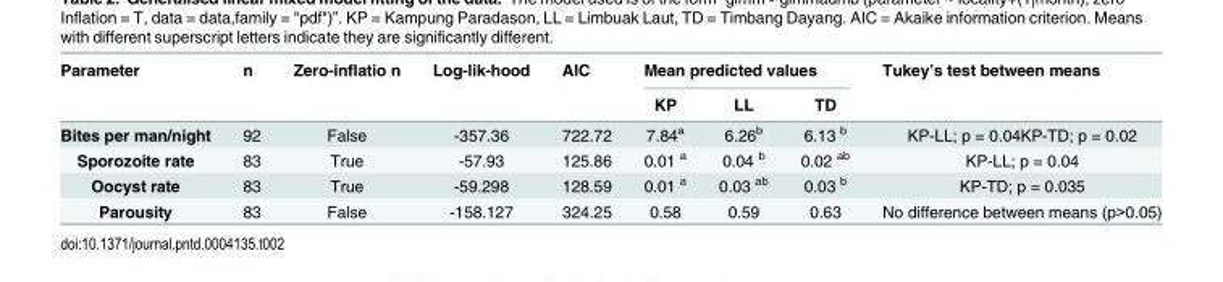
<table><thead><tr><td rowspan="2">Parameter</td><td rowspan="2">n</td><td rowspan="2">Zero-inflatio n</td><td rowspan="2">Log-lik-hood</td><td rowspan="2">AIC</td><td colspan="3">Mean predicted values</td><td rowspan="2">Tukey’s test between means</td></tr><tr><td>KP</td><td>LL</td><td>TD</td></tr></thead><tbody><tr><td>Bites per man/night</td><td>92</td><td>False</td><td>-357.36</td><td>722.72</td><td>7.84<sup>a</sup></td><td>6.26<sup>b</sup></td><td>6.13 <sup>b</sup></td><td>KP-LL; p = 0.04KP-TD; p = 0.02</td></tr><tr><td>Sporozoite rate</td><td>83</td><td>True</td><td>-57.93</td><td>125.86</td><td>0.01 <sup>a</sup></td><td>0.04 <sup>b</sup></td><td>0.02 <sup>ab</sup></td><td>KP-LL; p = 0.04</td></tr><tr><td>Oocyst rate</td><td>83</td><td>True</td><td>-59.298</td><td>128.59</td><td>0.01 <sup>a</sup></td><td>0.03 <sup>ab</sup></td><td>0.03 <sup>b</sup></td><td>KP-TD; p = 0.035</td></tr><tr><td>Parousity</td><td>83</td><td>False</td><td>-158.127</td><td>324.25</td><td>0.58</td><td>0.59</td><td>0.63</td><td>No difference between means (p&gt;0.05)</td></tr></tbody></table>